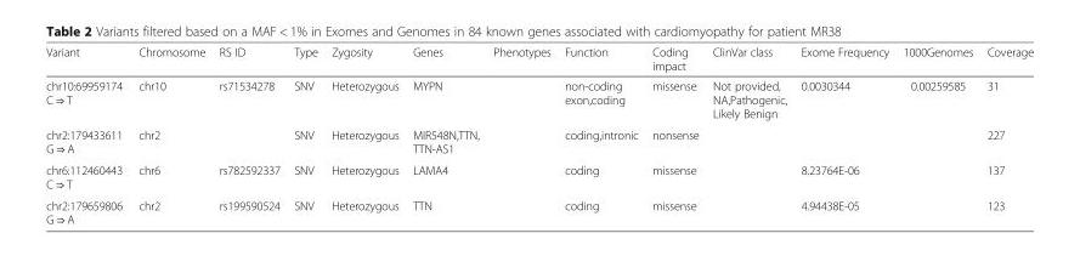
<table><thead><tr><td>Variant</td><td>Chromosome</td><td>RS ID</td><td>Type</td><td>Zygosity</td><td>Genes</td><td>Phenotypes</td><td>Function</td><td>Coding impact</td><td>ClinVar class</td><td>Exome Frequency</td><td>1000Genomes</td><td>Coverage</td></tr></thead><tbody><tr><td>chr10:69959174 C ⇒ T</td><td>chr10</td><td>rs71534278</td><td>SNV</td><td>Heterozygous</td><td>MYPN</td><td></td><td>non-coding exon,coding</td><td>missense</td><td>Not provided, NA,Pathogenic, Likely Benign</td><td>0.0030344</td><td>0.00259585</td><td>31</td></tr><tr><td>chr2:179433611 G ⇒ A</td><td>chr2</td><td></td><td>SNV</td><td>Heterozygous</td><td>MIR548N,TTN, TTN-AS1</td><td></td><td>coding,intronic</td><td>nonsense</td><td></td><td></td><td></td><td>227</td></tr><tr><td>chr6:112460443 C ⇒ T</td><td>chr6</td><td>rs782592337</td><td>SNV</td><td>Heterozygous</td><td>LAMA4</td><td></td><td>coding</td><td>missense</td><td></td><td>8.23764E-06</td><td></td><td>137</td></tr><tr><td>chr2:179659806 G ⇒ A</td><td>chr2</td><td>rs199590524</td><td>SNV</td><td>Heterozygous</td><td>TTN</td><td></td><td>coding</td><td>missense</td><td></td><td>4.94438E-05</td><td></td><td>123</td></tr></tbody></table>